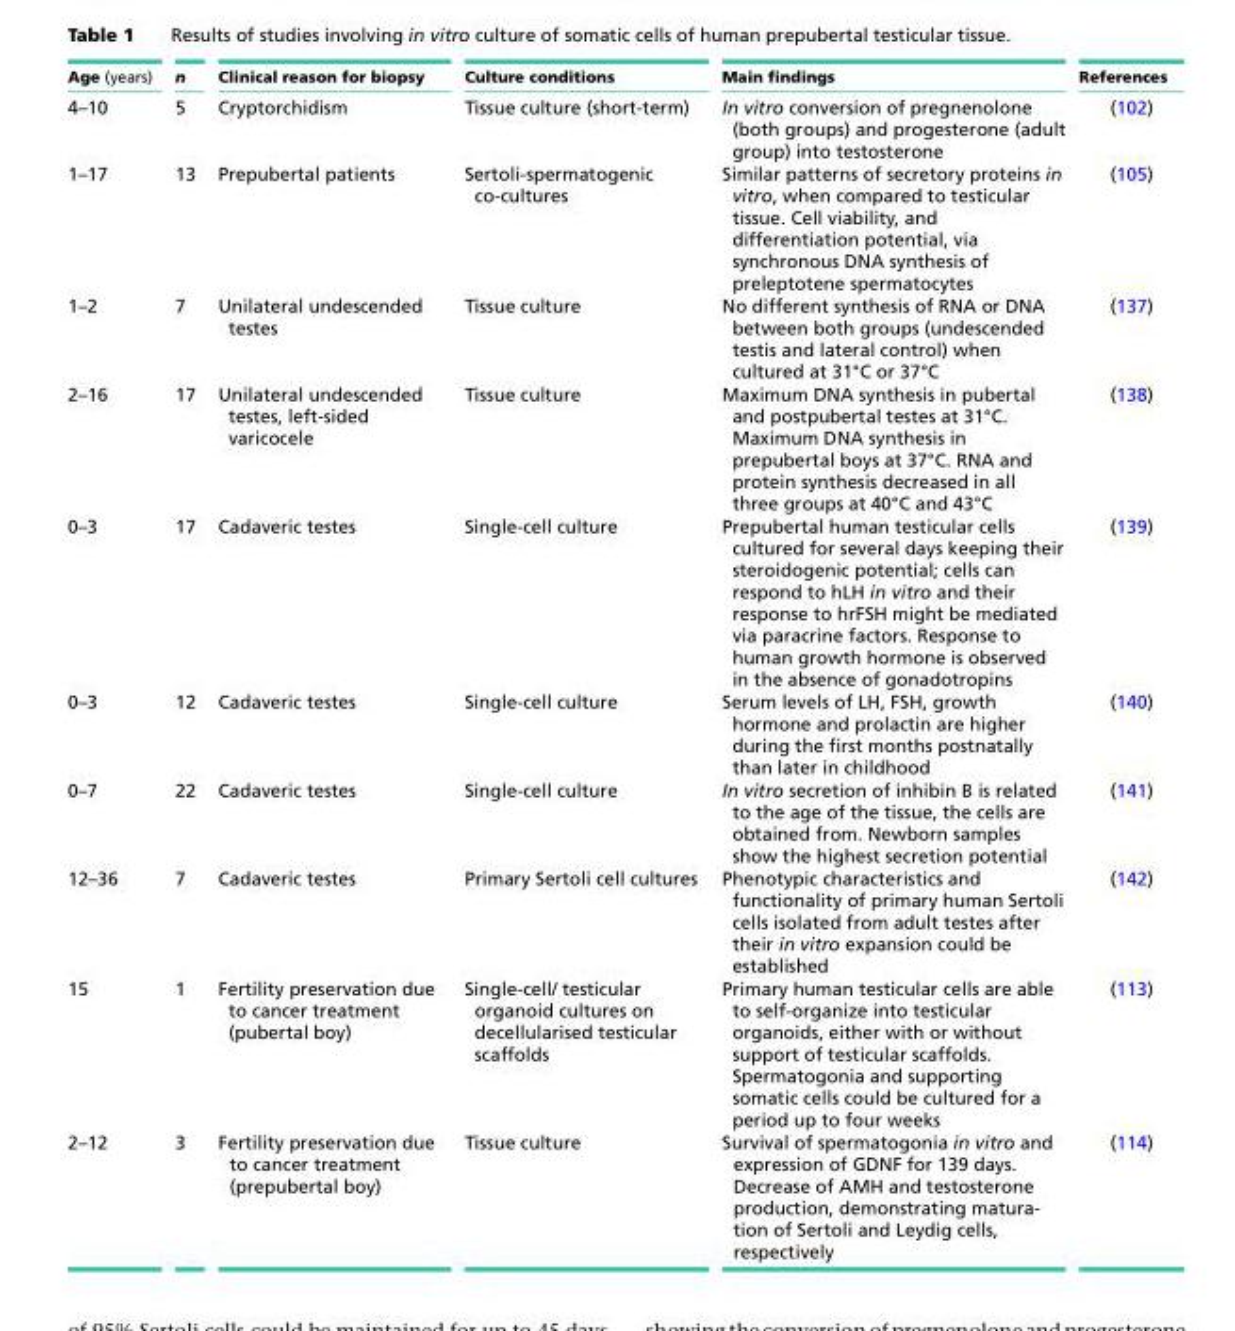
<table><thead><tr><td>Age (years)</td><td>n</td><td>Clinical reason for biopsy</td><td>Culture conditions</td><td>Main findings</td><td>References</td></tr></thead><tbody><tr><td>4–10</td><td>5</td><td>Cryptorchidism</td><td>Tissue culture (short-term)</td><td>In vitro conversion of pregnenolone (both groups) and progesterone (adult group) into testosterone</td><td>(102)</td></tr><tr><td>1–17</td><td>13</td><td>Prepubertal patients</td><td>Sertoli-spermatogenic co-cultures</td><td>Similar patterns of secretory proteins in vitro, when compared to testicular tissue. Cell viability, and differentiation potential, via synchronous DNA synthesis of preleptotene spermatocytes</td><td>(105)</td></tr><tr><td>1–2</td><td>7</td><td>Unilateral undescended testes</td><td>Tissue culture</td><td>No different synthesis of RNA or DNA between both groups (undescended testis and lateral control) when cultured at 31°C or 37°C</td><td>(137)</td></tr><tr><td>2–16</td><td>17</td><td>Unilateral undescended testes, left-sided varicocele</td><td>Tissue culture</td><td>Maximum DNA synthesis in pubertal and postpubertal testes at 31°C. Maximum DNA synthesis in prepubertal boys at 37°C. RNA and protein synthesis decreased in all three groups at 40°C and 43°C</td><td>(138)</td></tr><tr><td>0–3</td><td>17</td><td>Cadaveric testes</td><td>Single-cell culture</td><td>Prepubertal human testicular cells cultured for several days keeping their steroidogenic potential; cells can respond to hLH in vitro and their response to hrFSH might be mediated via paracrine factors. Response to human growth hormone is observed in the absence of gonadotropins</td><td>(139)</td></tr><tr><td>0–3</td><td>12</td><td>Cadaveric testes</td><td>Single-cell culture</td><td>Serum levels of LH, FSH, growth hormone and prolactin are higher during the first months postnatally than later in childhood</td><td>(140)</td></tr><tr><td>0–7</td><td>22</td><td>Cadaveric testes</td><td>Single-cell culture</td><td>In vitro secretion of inhibin B is related to the age of the tissue, the cells are obtained from. Newborn samples show the highest secretion potential</td><td>(141)</td></tr><tr><td>12–36</td><td>7</td><td>Cadaveric testes</td><td>Primary Sertoli cell cultures</td><td>Phenotypic characteristics and functionality of primary human Sertoli cells isolated from adult testes after their in vitro expansion could be established</td><td>(142)</td></tr><tr><td>15</td><td>1</td><td>Fertility preservation due to cancer treatment (pubertal boy)</td><td>Single-cell/ testicular organoid cultures on decellularised testicular scaffolds</td><td>Primary human testicular cells are able to self-organize into testicular organoids, either with or without support of testicular scaffolds. Spermatogonia and supporting somatic cells could be cultured for a period up to four weeks</td><td>(113)</td></tr><tr><td>2–12</td><td>3</td><td>Fertility preservation due to cancer treatment (prepubertal boy)</td><td>Tissue culture</td><td>Survival of spermatogonia in vitro and expression of GDNF for 139 days. Decrease of AMH and testosterone production, demonstrating matura- tion of Sertoli and Leydig cells, respectively</td><td>(114)</td></tr></tbody></table>